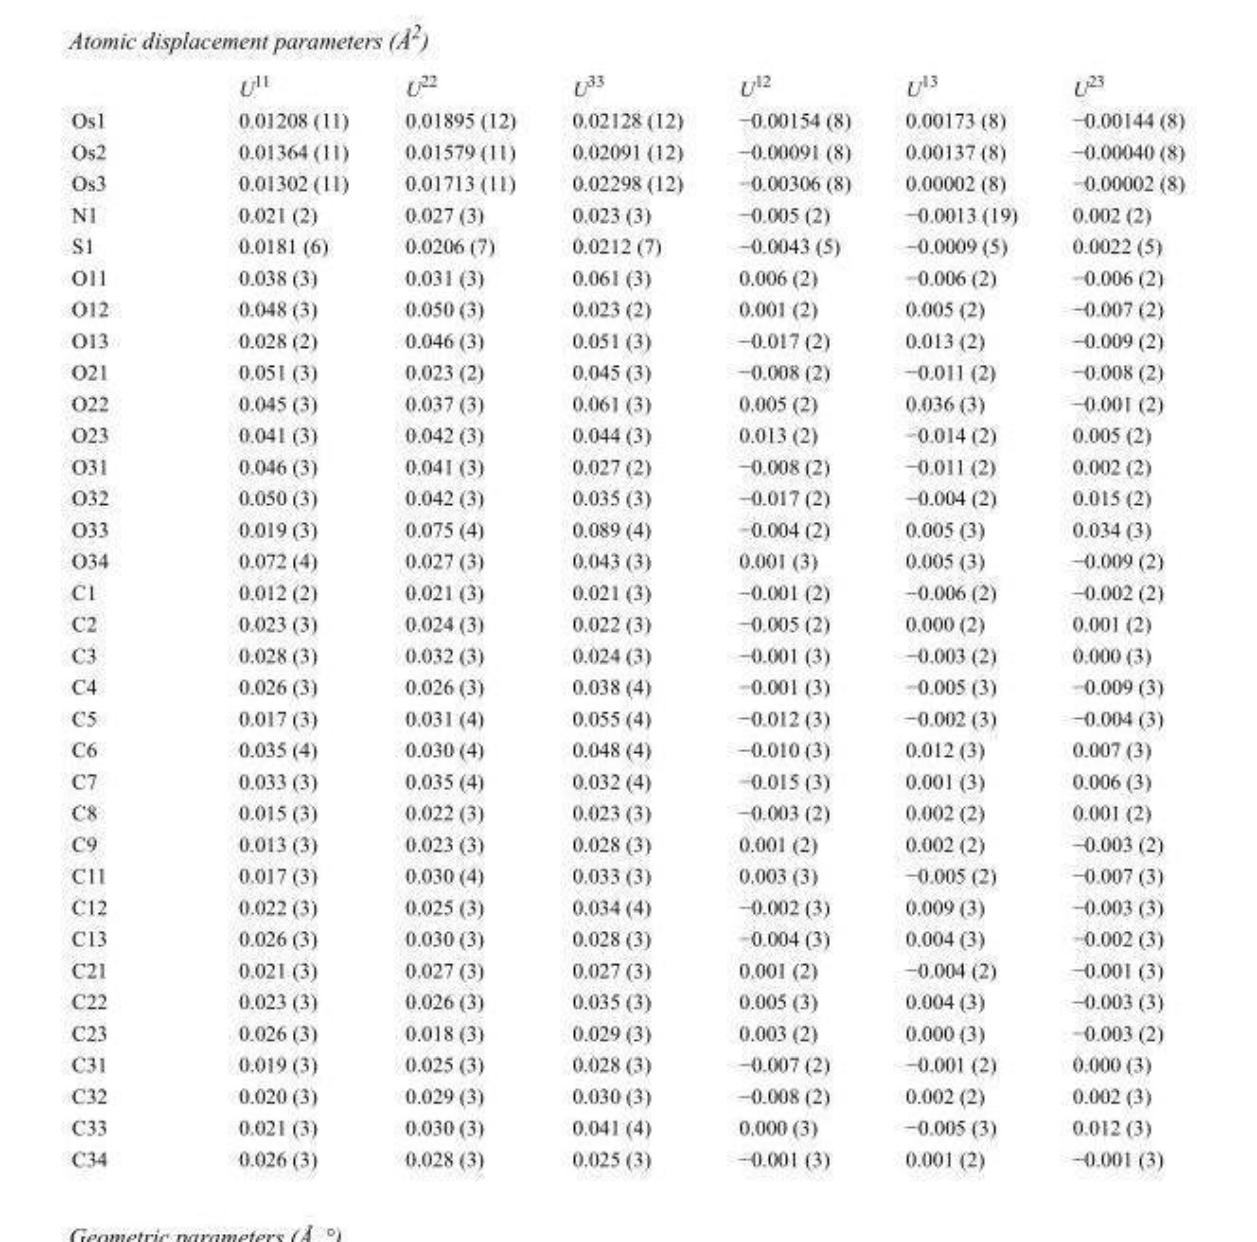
<table><thead><tr><td></td><td>U<sup>11</sup></td><td>U<sup>22</sup></td><td>U<sup>33</sup></td><td>U<sup>12</sup></td><td>U<sup>13</sup></td><td>U<sup>23</sup></td></tr></thead><tbody><tr><td>Os1</td><td>0.01208 (11)</td><td>0.01895 (12)</td><td>0.02128 (12)</td><td>−0.00154 (8)</td><td>0.00173 (8)</td><td>−0.00144 (8)</td></tr><tr><td>Os2</td><td>0.01364 (11)</td><td>0.01579 (11)</td><td>0.02091 (12)</td><td>−0.00091 (8)</td><td>0.00137 (8)</td><td>−0.00040 (8)</td></tr><tr><td>Os3</td><td>0.01302 (11)</td><td>0.01713 (11)</td><td>0.02298 (12)</td><td>−0.00306 (8)</td><td>0.00002 (8)</td><td>−0.00002 (8)</td></tr><tr><td>N1</td><td>0.021 (2)</td><td>0.027 (3)</td><td>0.023 (3)</td><td>−0.005 (2)</td><td>−0.0013 (19)</td><td>0.002 (2)</td></tr><tr><td>S1</td><td>0.0181 (6)</td><td>0.0206 (7)</td><td>0.0212 (7)</td><td>−0.0043 (5)</td><td>−0.0009 (5)</td><td>0.0022 (5)</td></tr><tr><td>O11</td><td>0.038 (3)</td><td>0.031 (3)</td><td>0.061 (3)</td><td>0.006 (2)</td><td>−0.006 (2)</td><td>−0.006 (2)</td></tr><tr><td>O12</td><td>0.048 (3)</td><td>0.050 (3)</td><td>0.023 (2)</td><td>0.001 (2)</td><td>0.005 (2)</td><td>−0.007 (2)</td></tr><tr><td>O13</td><td>0.028 (2)</td><td>0.046 (3)</td><td>0.051 (3)</td><td>−0.017 (2)</td><td>0.013 (2)</td><td>−0.009 (2)</td></tr><tr><td>O21</td><td>0.051 (3)</td><td>0.023 (2)</td><td>0.045 (3)</td><td>−0.008 (2)</td><td>−0.011 (2)</td><td>−0.008 (2)</td></tr><tr><td>O22</td><td>0.045 (3)</td><td>0.037 (3)</td><td>0.061 (3)</td><td>0.005 (2)</td><td>0.036 (3)</td><td>−0.001 (2)</td></tr><tr><td>O23</td><td>0.041 (3)</td><td>0.042 (3)</td><td>0.044 (3)</td><td>0.013 (2)</td><td>−0.014 (2)</td><td>0.005 (2)</td></tr><tr><td>O31</td><td>0.046 (3)</td><td>0.041 (3)</td><td>0.027 (2)</td><td>−0.008 (2)</td><td>−0.011 (2)</td><td>0.002 (2)</td></tr><tr><td>O32</td><td>0.050 (3)</td><td>0.042 (3)</td><td>0.035 (3)</td><td>−0.017 (2)</td><td>−0.004 (2)</td><td>0.015 (2)</td></tr><tr><td>O33</td><td>0.019 (3)</td><td>0.075 (4)</td><td>0.089 (4)</td><td>−0.004 (2)</td><td>0.005 (3)</td><td>0.034 (3)</td></tr><tr><td>O34</td><td>0.072 (4)</td><td>0.027 (3)</td><td>0.043 (3)</td><td>0.001 (3)</td><td>0.005 (3)</td><td>−0.009 (2)</td></tr><tr><td>C1</td><td>0.012 (2)</td><td>0.021 (3)</td><td>0.021 (3)</td><td>−0.001 (2)</td><td>−0.006 (2)</td><td>−0.002 (2)</td></tr><tr><td>C2</td><td>0.023 (3)</td><td>0.024 (3)</td><td>0.022 (3)</td><td>−0.005 (2)</td><td>0.000 (2)</td><td>0.001 (2)</td></tr><tr><td>C3</td><td>0.028 (3)</td><td>0.032 (3)</td><td>0.024 (3)</td><td>−0.001 (3)</td><td>−0.003 (2)</td><td>0.000 (3)</td></tr><tr><td>C4</td><td>0.026 (3)</td><td>0.026 (3)</td><td>0.038 (4)</td><td>−0.001 (3)</td><td>−0.005 (3)</td><td>−0.009 (3)</td></tr><tr><td>C5</td><td>0.017 (3)</td><td>0.031 (4)</td><td>0.055 (4)</td><td>−0.012 (3)</td><td>−0.002 (3)</td><td>−0.004 (3)</td></tr><tr><td>C6</td><td>0.035 (4)</td><td>0.030 (4)</td><td>0.048 (4)</td><td>−0.010 (3)</td><td>0.012 (3)</td><td>0.007 (3)</td></tr><tr><td>C7</td><td>0.033 (3)</td><td>0.035 (4)</td><td>0.032 (4)</td><td>−0.015 (3)</td><td>0.001 (3)</td><td>0.006 (3)</td></tr><tr><td>C8</td><td>0.015 (3)</td><td>0.022 (3)</td><td>0.023 (3)</td><td>−0.003 (2)</td><td>0.002 (2)</td><td>0.001 (2)</td></tr><tr><td>C9</td><td>0.013 (3)</td><td>0.023 (3)</td><td>0.028 (3)</td><td>0.001 (2)</td><td>0.002 (2)</td><td>−0.003 (2)</td></tr><tr><td>C11</td><td>0.017 (3)</td><td>0.030 (4)</td><td>0.033 (3)</td><td>0.003 (3)</td><td>−0.005 (2)</td><td>−0.007 (3)</td></tr><tr><td>C12</td><td>0.022 (3)</td><td>0.025 (3)</td><td>0.034 (4)</td><td>−0.002 (3)</td><td>0.009 (3)</td><td>−0.003 (3)</td></tr><tr><td>C13</td><td>0.026 (3)</td><td>0.030 (3)</td><td>0.028 (3)</td><td>−0.004 (3)</td><td>0.004 (3)</td><td>−0.002 (3)</td></tr><tr><td>C21</td><td>0.021 (3)</td><td>0.027 (3)</td><td>0.027 (3)</td><td>0.001 (2)</td><td>−0.004 (2)</td><td>−0.001 (3)</td></tr><tr><td>C22</td><td>0.023 (3)</td><td>0.026 (3)</td><td>0.035 (3)</td><td>0.005 (3)</td><td>0.004 (3)</td><td>−0.003 (3)</td></tr><tr><td>C23</td><td>0.026 (3)</td><td>0.018 (3)</td><td>0.029 (3)</td><td>0.003 (2)</td><td>0.000 (3)</td><td>−0.003 (2)</td></tr><tr><td>C31</td><td>0.019 (3)</td><td>0.025 (3)</td><td>0.028 (3)</td><td>−0.007 (2)</td><td>−0.001 (2)</td><td>0.000 (3)</td></tr><tr><td>C32</td><td>0.020 (3)</td><td>0.029 (3)</td><td>0.030 (3)</td><td>−0.008 (2)</td><td>0.002 (2)</td><td>0.002 (3)</td></tr><tr><td>C33</td><td>0.021 (3)</td><td>0.030 (3)</td><td>0.041 (4)</td><td>0.000 (3)</td><td>−0.005 (3)</td><td>0.012 (3)</td></tr><tr><td>C34</td><td>0.026 (3)</td><td>0.028 (3)</td><td>0.025 (3)</td><td>−0.001 (3)</td><td>0.001 (2)</td><td>−0.001 (3)</td></tr></tbody></table>